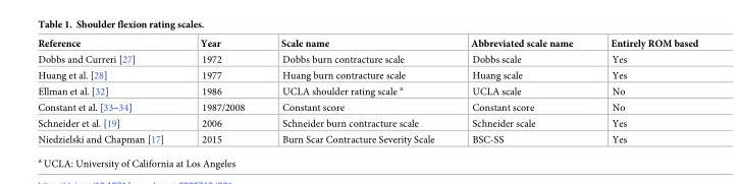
<table><thead><tr><td>Reference</td><td>Year</td><td>Scale name</td><td>Abbreviated scale name</td><td>Entirely ROM based</td></tr></thead><tbody><tr><td>Dobbs and Curreri [27]</td><td>1972</td><td>Dobbs burn contracture scale</td><td>Dobbs scale</td><td>Yes</td></tr><tr><td>Huang et al. [28]</td><td>1977</td><td>Huang burn contracture scale</td><td>Huang scale</td><td>Yes</td></tr><tr><td>Ellman et al. [32]</td><td>1986</td><td>UCLA shoulder rating scale <sup>a</sup></td><td>UCLA scale</td><td>No</td></tr><tr><td>Constant et al. [33–34]</td><td>1987/2008</td><td>Constant score</td><td>Constant score</td><td>No</td></tr><tr><td>Schneider et al. [19]</td><td>2006</td><td>Schneider burn contracture scale</td><td>Schneider scale</td><td>Yes</td></tr><tr><td>Niedzielski and Chapman [17]</td><td>2015</td><td>Burn Scar Contracture Severity Scale</td><td>BSC-SS</td><td>Yes</td></tr></tbody></table>